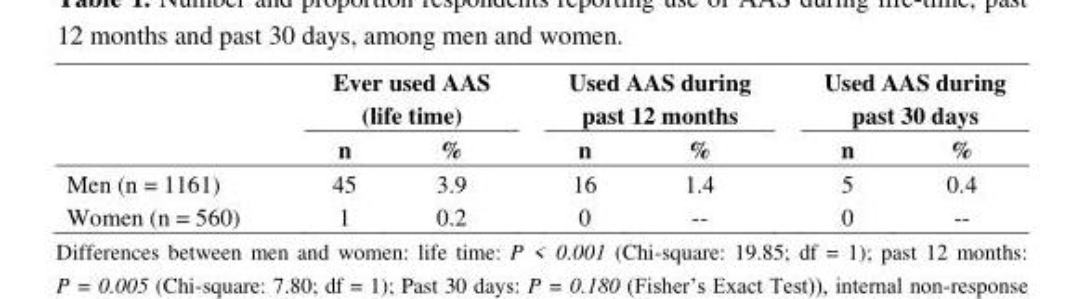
<table><thead><tr><td rowspan="2"></td><td colspan="2">Ever used AAS (life time)</td><td colspan="2">Used AAS during past 12 months</td><td colspan="2">Used AAS during past 30 days</td></tr><tr><td>n</td><td>%</td><td>n</td><td>%</td><td>n</td><td>%</td></tr></thead><tbody><tr><td>Men (n = 1161)</td><td>45</td><td>3.9</td><td>16</td><td>1.4</td><td>5</td><td>0.4</td></tr><tr><td>Women (n = 560)</td><td>1</td><td>0.2</td><td>0</td><td>--</td><td>0</td><td>--</td></tr></tbody></table>